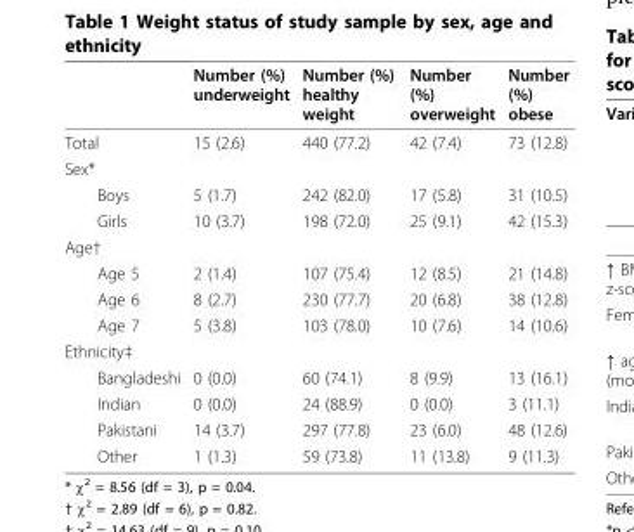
<table><thead><tr><td></td><td>Number (%) underweight</td><td>Number (%) healthy weight</td><td>Number (%) overweight</td><td>Number (%) obese</td></tr></thead><tbody><tr><td>Total</td><td>15 (2.6)</td><td>440 (77.2)</td><td>42 (7.4)</td><td>73 (12.8)</td></tr><tr><td colspan="5">Sex*</td></tr><tr><td>Boys</td><td>5 (1.7)</td><td>242 (82.0)</td><td>17 (5.8)</td><td>31 (10.5)</td></tr><tr><td>Girls</td><td>10 (3.7)</td><td>198 (72.0)</td><td>25 (9.1)</td><td>42 (15.3)</td></tr><tr><td colspan="5">Age†</td></tr><tr><td>Age 5</td><td>2 (1.4)</td><td>107 (75.4)</td><td>12 (8.5)</td><td>21 (14.8)</td></tr><tr><td>Age 6</td><td>8 (2.7)</td><td>230 (77.7)</td><td>20 (6.8)</td><td>38 (12.8)</td></tr><tr><td>Age 7</td><td>5 (3.8)</td><td>103 (78.0)</td><td>10 (7.6)</td><td>14 (10.6)</td></tr><tr><td colspan="5">Ethnicity‡</td></tr><tr><td>Bangladeshi</td><td>0 (0.0)</td><td>60 (74.1)</td><td>8 (9.9)</td><td>13 (16.1)</td></tr><tr><td>Indian</td><td>0 (0.0)</td><td>24 (88.9)</td><td>0 (0.0)</td><td>3 (11.1)</td></tr><tr><td>Pakistani</td><td>14 (3.7)</td><td>297 (77.8)</td><td>23 (6.0)</td><td>48 (12.6)</td></tr><tr><td>Other</td><td>1 (1.3)</td><td>59 (73.8)</td><td>11 (13.8)</td><td>9 (11.3)</td></tr></tbody></table>